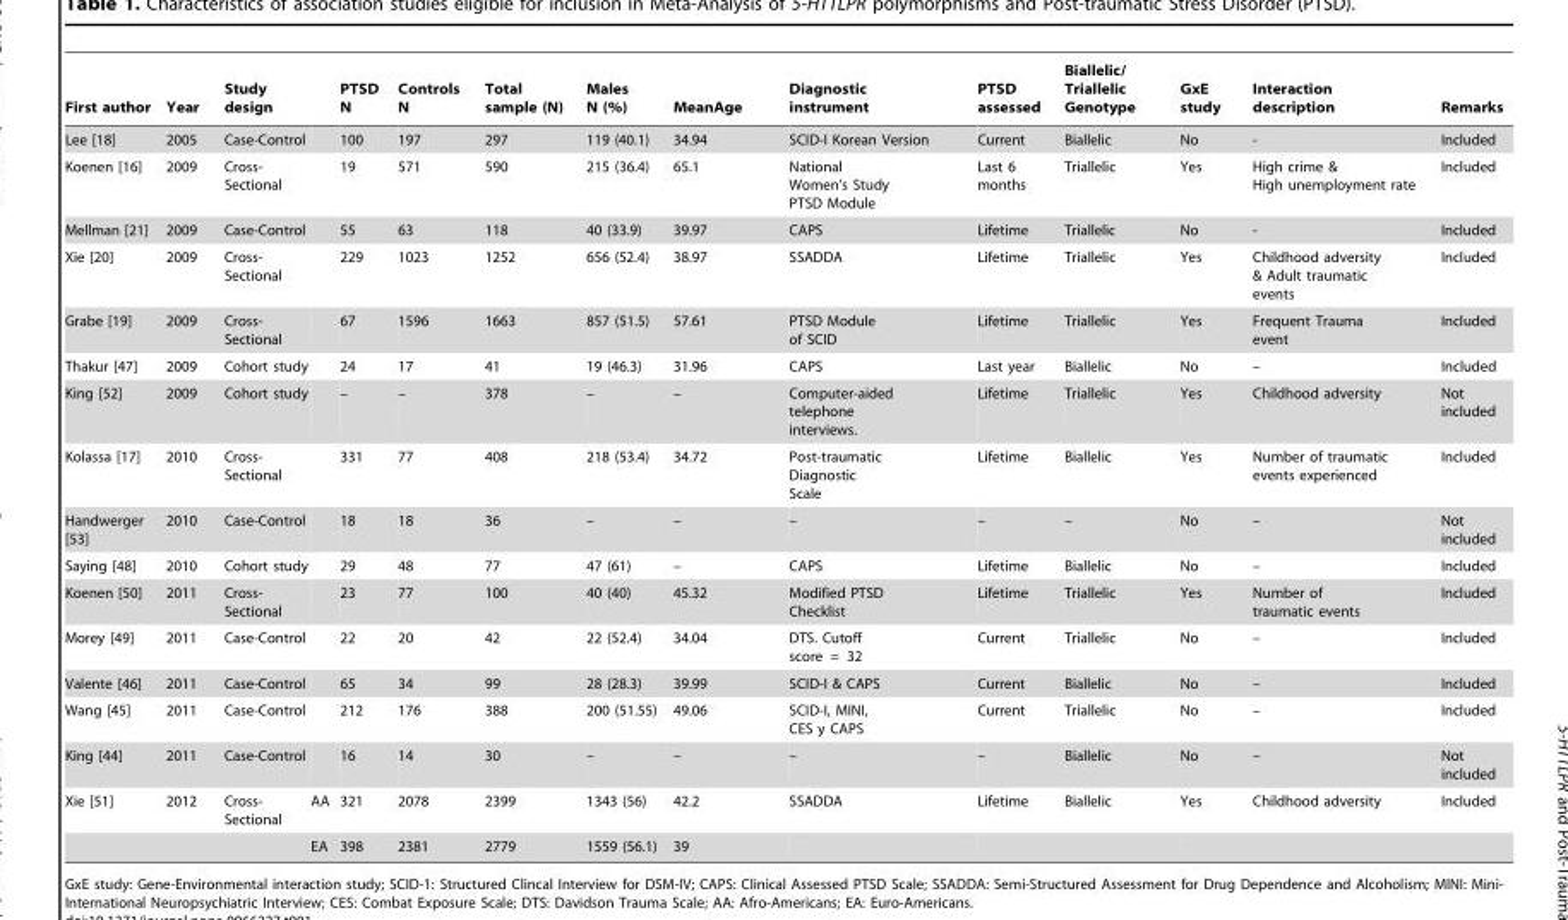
<table><thead><tr><td>First author</td><td>Year</td><td>Study design</td><td></td><td>PTSD N</td><td>Controls N</td><td>Total sample (N)</td><td>Males N (%)</td><td>MeanAge</td><td>Diagnostic instrument</td><td>PTSD assessed</td><td>Biallelic/ Triallelic Genotype</td><td>GxE study</td><td>Interaction description</td><td>Remarks</td></tr></thead><tbody><tr><td>Lee [18]</td><td>2005</td><td>Case-Control</td><td></td><td>100</td><td>197</td><td>297</td><td>119 (40.1)</td><td>34.94</td><td>SCID-I Korean Version</td><td>Current</td><td>Biallelic</td><td>No</td><td>-</td><td>Included</td></tr><tr><td>Koenen [16]</td><td>2009</td><td>Cross- Sectional</td><td></td><td>19</td><td>571</td><td>590</td><td>215 (36.4)</td><td>65.1</td><td>National Women’s Study PTSD Module</td><td>Last 6 months</td><td>Triallelic</td><td>Yes</td><td>High crime &amp; High unemployment rate</td><td>Included</td></tr><tr><td>Mellman [21]</td><td>2009</td><td>Case-Control</td><td></td><td>55</td><td>63</td><td>118</td><td>40 (33.9)</td><td>39.97</td><td>CAPS</td><td>Lifetime</td><td>Triallelic</td><td>No</td><td>-</td><td>Included</td></tr><tr><td>Xie [20]</td><td>2009</td><td>Cross- Sectional</td><td></td><td>229</td><td>1023</td><td>1252</td><td>656 (52.4)</td><td>38.97</td><td>SSADDA</td><td>Lifetime</td><td>Triallelic</td><td>Yes</td><td>Childhood adversity &amp; Adult traumatic events</td><td>Included</td></tr><tr><td>Grabe [19]</td><td>2009</td><td>Cross- Sectional</td><td></td><td>67</td><td>1596</td><td>1663</td><td>857 (51.5)</td><td>57.61</td><td>PTSD Module of SCID</td><td>Lifetime</td><td>Triallelic</td><td>Yes</td><td>Frequent Trauma event</td><td>Included</td></tr><tr><td>Thakur [47]</td><td>2009</td><td>Cohort study</td><td></td><td>24</td><td>17</td><td>41</td><td>19 (46.3)</td><td>31.96</td><td>CAPS</td><td>Last year</td><td>Biallelic</td><td>No</td><td>–</td><td>Included</td></tr><tr><td>King [52]</td><td>2009</td><td>Cohort study</td><td></td><td>–</td><td>–</td><td>378</td><td>–</td><td>–</td><td>Computer-aided telephone interviews.</td><td>Lifetime</td><td>Triallelic</td><td>Yes</td><td>Childhood adversity</td><td>Not included</td></tr><tr><td>Kolassa [17]</td><td>2010</td><td>Cross- Sectional</td><td></td><td>331</td><td>77</td><td>408</td><td>218 (53.4)</td><td>34.72</td><td>Post-traumatic Diagnostic Scale</td><td>Lifetime</td><td>Biallelic</td><td>Yes</td><td>Number of traumatic events experienced</td><td>Included</td></tr><tr><td>Handwerger [53]</td><td>2010</td><td>Case-Control</td><td></td><td>18</td><td>18</td><td>36</td><td>–</td><td>–</td><td>–</td><td>–</td><td>–</td><td>No</td><td>–</td><td>Not included</td></tr><tr><td>Saying [48]</td><td>2010</td><td>Cohort study</td><td></td><td>29</td><td>48</td><td>77</td><td>47 (61)</td><td>–</td><td>CAPS</td><td>Lifetime</td><td>Biallelic</td><td>No</td><td>–</td><td>Included</td></tr><tr><td>Koenen [50]</td><td>2011</td><td>Cross- Sectional</td><td></td><td>23</td><td>77</td><td>100</td><td>40 (40)</td><td>45.32</td><td>Modified PTSD Checklist</td><td>Lifetime</td><td>Triallelic</td><td>Yes</td><td>Number of traumatic events</td><td>Included</td></tr><tr><td>Morey [49]</td><td>2011</td><td>Case-Control</td><td></td><td>22</td><td>20</td><td>42</td><td>22 (52.4)</td><td>34.04</td><td>DTS. Cutoff score = 32</td><td>Current</td><td>Triallelic</td><td>No</td><td>–</td><td>Included</td></tr><tr><td>Valente [46]</td><td>2011</td><td>Case-Control</td><td></td><td>65</td><td>34</td><td>99</td><td>28 (28.3)</td><td>39.99</td><td>SCID-I &amp; CAPS</td><td>Current</td><td>Biallelic</td><td>No</td><td>–</td><td>Included</td></tr><tr><td>Wang [45]</td><td>2011</td><td>Case-Control</td><td></td><td>212</td><td>176</td><td>388</td><td>200 (51.55)</td><td>49.06</td><td>SCID-I, MINI, CES y CAPS</td><td>Current</td><td>Triallelic</td><td>No</td><td>–</td><td>Included</td></tr><tr><td>King [44]</td><td>2011</td><td>Case-Control</td><td></td><td>16</td><td>14</td><td>30</td><td>–</td><td>–</td><td>–</td><td>–</td><td>Biallelic</td><td>No</td><td>–</td><td>Not included</td></tr><tr><td rowspan="2">Xie [51]</td><td>2012</td><td>Cross- Sectional</td><td>AA</td><td>321</td><td>2078</td><td>2399</td><td>1343 (56)</td><td>42.2</td><td>SSADDA</td><td>Lifetime</td><td>Biallelic</td><td>Yes</td><td>Childhood adversity</td><td>Included</td></tr><tr><td></td><td></td><td>EA</td><td>398</td><td>2381</td><td>2779</td><td>1559 (56.1)</td><td>39</td><td></td><td></td><td></td><td></td><td></td><td></td></tr></tbody></table>